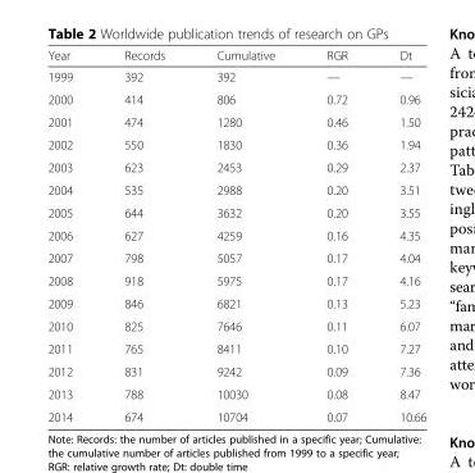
<table><thead><tr><td>Year</td><td>Records</td><td>Cumulative</td><td>RGR</td><td>Dt</td></tr></thead><tbody><tr><td>1999</td><td>392</td><td>392</td><td>—</td><td>—</td></tr><tr><td>2000</td><td>414</td><td>806</td><td>0.72</td><td>0.96</td></tr><tr><td>2001</td><td>474</td><td>1280</td><td>0.46</td><td>1.50</td></tr><tr><td>2002</td><td>550</td><td>1830</td><td>0.36</td><td>1.94</td></tr><tr><td>2003</td><td>623</td><td>2453</td><td>0.29</td><td>2.37</td></tr><tr><td>2004</td><td>535</td><td>2988</td><td>0.20</td><td>3.51</td></tr><tr><td>2005</td><td>644</td><td>3632</td><td>0.20</td><td>3.55</td></tr><tr><td>2006</td><td>627</td><td>4259</td><td>0.16</td><td>4.35</td></tr><tr><td>2007</td><td>798</td><td>5057</td><td>0.17</td><td>4.04</td></tr><tr><td>2008</td><td>918</td><td>5975</td><td>0.17</td><td>4.16</td></tr><tr><td>2009</td><td>846</td><td>6821</td><td>0.13</td><td>5.23</td></tr><tr><td>2010</td><td>825</td><td>7646</td><td>0.11</td><td>6.07</td></tr><tr><td>2011</td><td>765</td><td>8411</td><td>0.10</td><td>7.27</td></tr><tr><td>2012</td><td>831</td><td>9242</td><td>0.09</td><td>7.36</td></tr><tr><td>2013</td><td>788</td><td>10030</td><td>0.08</td><td>8.47</td></tr><tr><td>2014</td><td>674</td><td>10704</td><td>0.07</td><td>10.66</td></tr></tbody></table>